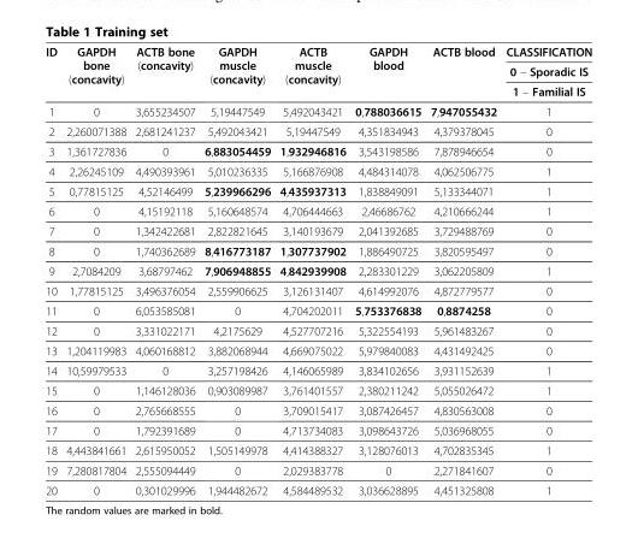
<table><thead><tr><td rowspan="3">ID</td><td rowspan="3">GAPDH bone (concavity)</td><td rowspan="3">ACTB bone (concavity)</td><td rowspan="3">GAPDH muscle (concavity)</td><td rowspan="3">ACTB muscle (concavity)</td><td rowspan="3">GAPDH blood</td><td rowspan="3">ACTB blood</td><td rowspan="3">CLASSIFICATION 0 – Sporadic IS 1 – Familial IS</td></tr><tr></tr><tr></tr></thead><tbody><tr><td>1</td><td>0</td><td>3,655234507</td><td>5,19447549</td><td>5,492043421</td><td>0,788036615</td><td>7,947055432</td><td>1</td></tr><tr><td>2</td><td>2,260071388</td><td>2,681241237</td><td>5,492043421</td><td>5,19447549</td><td>4,351834943</td><td>4,379378045</td><td>0</td></tr><tr><td>3</td><td>1,361727836</td><td>0</td><td>6,883054459</td><td>1,932946816</td><td>3,543198586</td><td>7,878946654</td><td>0</td></tr><tr><td>4</td><td>2,26245109</td><td>4,490393961</td><td>5,010236335</td><td>5,166876908</td><td>4,484314078</td><td>4,062506775</td><td>1</td></tr><tr><td>5</td><td>0,77815125</td><td>4,52146499</td><td>5,239966296</td><td>4,435937313</td><td>1,838849091</td><td>5,133344071</td><td>1</td></tr><tr><td>6</td><td>0</td><td>4,15192118</td><td>5,160648574</td><td>4,706444663</td><td>2,46686762</td><td>4,210666244</td><td>1</td></tr><tr><td>7</td><td>0</td><td>1,342422681</td><td>2,822821645</td><td>3,140193679</td><td>2,041392685</td><td>3,729488769</td><td>0</td></tr><tr><td>8</td><td>0</td><td>1,740362689</td><td>8,416773187</td><td>1,307737902</td><td>1,886490725</td><td>3,820595497</td><td>0</td></tr><tr><td>9</td><td>2,7084209</td><td>3,68797462</td><td>7,906948855</td><td>4,842939908</td><td>2,283301229</td><td>3,062205809</td><td>1</td></tr><tr><td>10</td><td>1,77815125</td><td>3,496376054</td><td>2,559906625</td><td>3,126131407</td><td>4,614992076</td><td>4,872779577</td><td>0</td></tr><tr><td>11</td><td>0</td><td>6,053585081</td><td>0</td><td>4,704202011</td><td>5,753376838</td><td>0,8874258</td><td>0</td></tr><tr><td>12</td><td>0</td><td>3,331022171</td><td>4,2175629</td><td>4,527707216</td><td>5,322554193</td><td>5,961483267</td><td>0</td></tr><tr><td>13</td><td>1,204119983</td><td>4,060168812</td><td>3,882068944</td><td>4,669075022</td><td>5,979840083</td><td>4,431492425</td><td>0</td></tr><tr><td>14</td><td>10,59979533</td><td>0</td><td>3,257198426</td><td>4,146065989</td><td>3,834102656</td><td>3,931152639</td><td>1</td></tr><tr><td>15</td><td>0</td><td>1,146128036</td><td>0,903089987</td><td>3,761401557</td><td>2,380211242</td><td>5,055026472</td><td>1</td></tr><tr><td>16</td><td>0</td><td>2,765668555</td><td>0</td><td>3,709015417</td><td>3,087426457</td><td>4,830563008</td><td>0</td></tr><tr><td>17</td><td>0</td><td>1,792391689</td><td>0</td><td>4,713734083</td><td>3,098643726</td><td>5,036968055</td><td>0</td></tr><tr><td>18</td><td>4,443841661</td><td>2,615950052</td><td>1,505149978</td><td>4,414388327</td><td>3,128076013</td><td>4,702835345</td><td>1</td></tr><tr><td>19</td><td>7,280817804</td><td>2,555094449</td><td>0</td><td>2,029383778</td><td>0</td><td>2,271841607</td><td>0</td></tr><tr><td>20</td><td>0</td><td>0,301029996</td><td>1,944482672</td><td>4,584489532</td><td>3,036628895</td><td>4,451325808</td><td>1</td></tr></tbody></table>